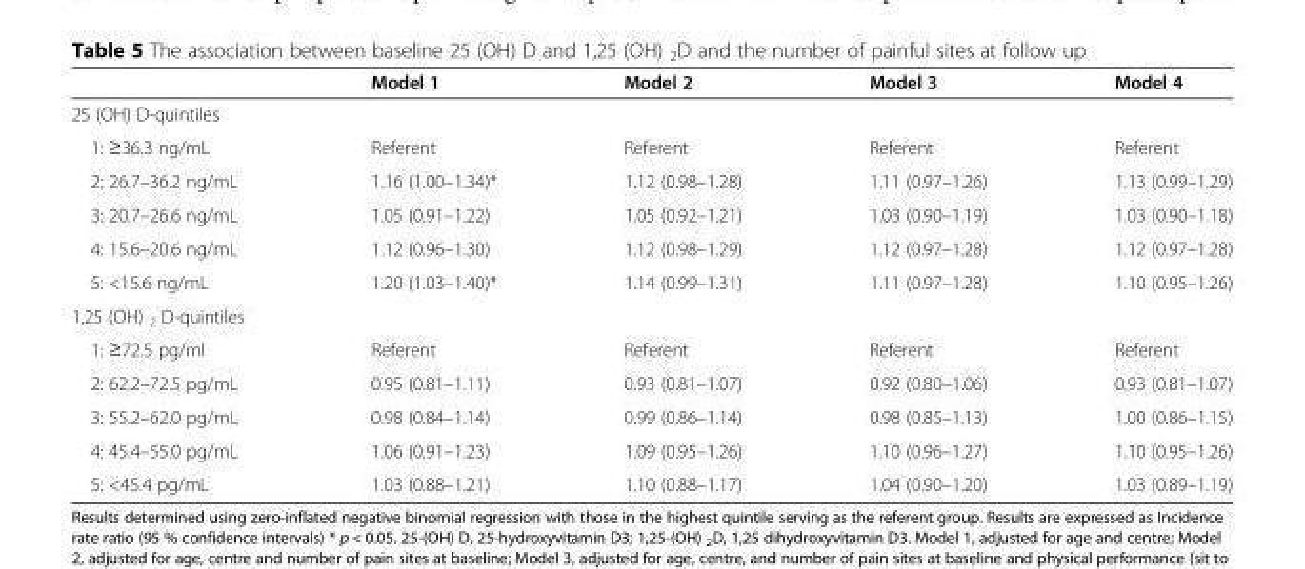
<table><thead><tr><td></td><td>Model 1</td><td>Model 2</td><td>Model 3</td><td>Model 4</td></tr></thead><tbody><tr><td colspan="5">25 (OH) D-quintiles</td></tr><tr><td>1: ≥36.3 ng/mL</td><td>Referent</td><td>Referent</td><td>Referent</td><td>Referent</td></tr><tr><td>2: 26.7–36.2 ng/mL</td><td>1.16 (1.00–1.34)*</td><td>1.12 (0.98–1.28)</td><td>1.11 (0.97–1.26)</td><td>1.13 (0.99–1.29)</td></tr><tr><td>3: 20.7–26.6 ng/mL</td><td>1.05 (0.91–1.22)</td><td>1.05 (0.92–1.21)</td><td>1.03 (0.90–1.19)</td><td>1.03 (0.90–1.18)</td></tr><tr><td>4: 15.6–20.6 ng/mL</td><td>1.12 (0.96–1.30)</td><td>1.12 (0.98–1.29)</td><td>1.12 (0.97–1.28)</td><td>1.12 (0.97–1.28)</td></tr><tr><td>5: &lt;15.6 ng/mL</td><td>1.20 (1.03–1.40)*</td><td>1.14 (0.99–1.31)</td><td>1.11 (0.97–1.28)</td><td>1.10 (0.95–1.26)</td></tr><tr><td colspan="5">1,25 (OH) <sub>2</sub> D-quintiles</td></tr><tr><td>1: ≥72.5 pg/ml</td><td>Referent</td><td>Referent</td><td>Referent</td><td>Referent</td></tr><tr><td>2: 62.2–72.5 pg/mL</td><td>0.95 (0.81–1.11)</td><td>0.93 (0.81–1.07)</td><td>0.92 (0.80–1.06)</td><td>0.93 (0.81–1.07)</td></tr><tr><td>3: 55.2–62.0 pg/mL</td><td>0.98 (0.84–1.14)</td><td>0.99 (0.86–1.14)</td><td>0.98 (0.85–1.13)</td><td>1.00 (0.86–1.15)</td></tr><tr><td>4: 45.4–55.0 pg/mL</td><td>1.06 (0.91–1.23)</td><td>1.09 (0.95–1.26)</td><td>1.10 (0.96–1.27)</td><td>1.10 (0.95–1.26)</td></tr><tr><td>5: &lt;45.4 pg/mL</td><td>1.03 (0.88–1.21)</td><td>1.10 (0.88–1.17)</td><td>1.04 (0.90–1.20)</td><td>1.03 (0.89–1.19)</td></tr></tbody></table>